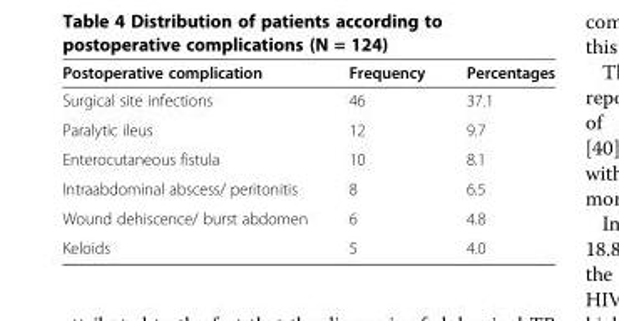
<table><thead><tr><td>Postoperative complication</td><td>Frequency</td><td>Percentages</td></tr></thead><tbody><tr><td>Surgical site infections</td><td>46</td><td>37.1</td></tr><tr><td>Paralytic ileus</td><td>12</td><td>9.7</td></tr><tr><td>Enterocutaneous fistula</td><td>10</td><td>8.1</td></tr><tr><td>Intraabdominal abscess/ peritonitis</td><td>8</td><td>6.5</td></tr><tr><td>Wound dehiscence/ burst abdomen</td><td>6</td><td>4.8</td></tr><tr><td>Keloids</td><td>5</td><td>4.0</td></tr></tbody></table>